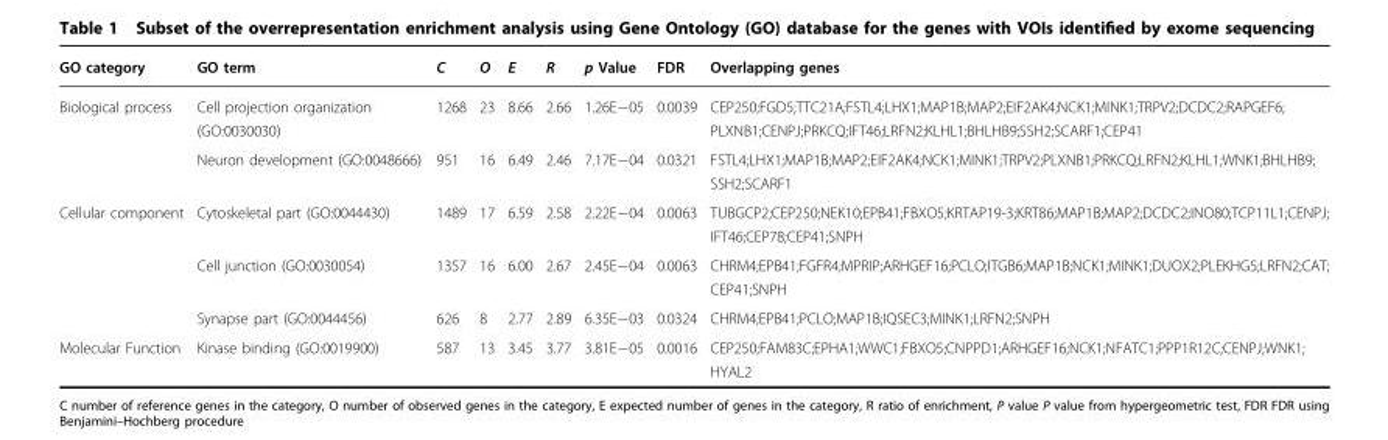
<table><thead><tr><td>GO category</td><td>GO term</td><td>C</td><td>O</td><td>E</td><td>R</td><td>p Value</td><td>FDR</td><td>Overlapping genes</td></tr></thead><tbody><tr><td rowspan="2">Biological process</td><td>Cell projection organization (GO:0030030)</td><td>1268</td><td>23</td><td>8.66</td><td>2.66</td><td>1.26E−05</td><td>0.0039</td><td>CEP250;FGD5;TTC21A;FSTL4;LHX1;MAP1B;MAP2;EIF2AK4;NCK1;MINK1;TRPV2;DCDC2;RAPGEF6; PLXNB1;CENPJ;PRKCQ;IFT46;LRFN2;KLHL1;BHLHB9;SSH2;SCARF1;CEP41</td></tr><tr><td>Neuron development (GO:0048666)</td><td>951</td><td>16</td><td>6.49</td><td>2.46</td><td>7.17E−04</td><td>0.0321</td><td>FSTL4;LHX1;MAP1B;MAP2;EIF2AK4;NCK1;MINK1;TRPV2;PLXNB1;PRKCQ;LRFN2;KLHL1;WNK1;BHLHB9; SSH2;SCARF1</td></tr><tr><td rowspan="3">Cellular component</td><td>Cytoskeletal part (GO:0044430)</td><td>1489</td><td>17</td><td>6.59</td><td>2.58</td><td>2.22E−04</td><td>0.0063</td><td>TUBGCP2;CEP250;NEK10;EPB41;FBXO5;KRTAP19-3;KRT86;MAP1B;MAP2;DCDC2;INO80;TCP11L1;CENPJ; IFT46;CEP78;CEP41;SNPH</td></tr><tr><td>Cell junction (GO:0030054)</td><td>1357</td><td>16</td><td>6.00</td><td>2.67</td><td>2.45E−04</td><td>0.0063</td><td>CHRM4;EPB41;FGFR4;MPRIP;ARHGEF16;PCLO;ITGB6;MAP1B;NCK1;MINK1;DUOX2;PLEKHG5;LRFN2;CAT; CEP41;SNPH</td></tr><tr><td>Synapse part (GO:0044456)</td><td>626</td><td>8</td><td>2.77</td><td>2.89</td><td>6.35E−03</td><td>0.0324</td><td>CHRM4;EPB41;PCLO;MAP1B;IQSEC3;MINK1;LRFN2;SNPH</td></tr><tr><td>Molecular Function</td><td>Kinase binding (GO:0019900)</td><td>587</td><td>13</td><td>3.45</td><td>3.77</td><td>3.81E−05</td><td>0.0016</td><td>CEP250;FAM83C;EPHA1;WWC1;FBXO5;CNPPD1;ARHGEF16;NCK1;NFATC1;PPP1R12C;CENPJ;WNK1; HYAL2</td></tr></tbody></table>